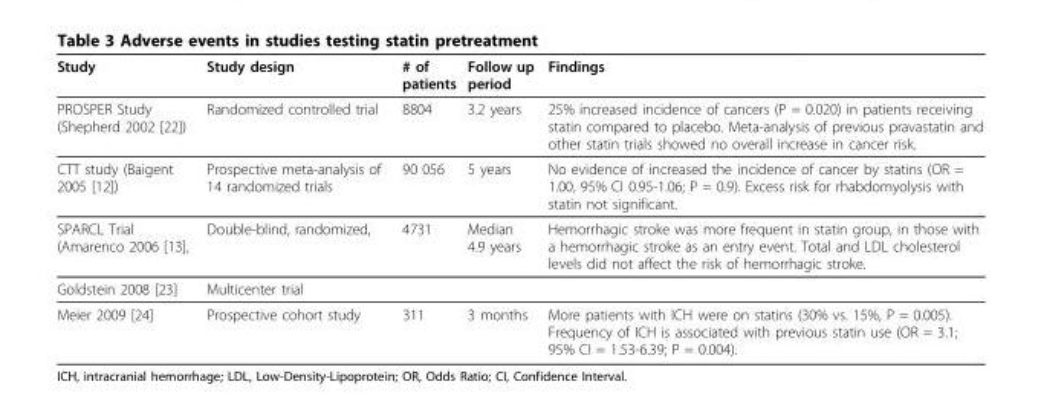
<table><thead><tr><td>Study</td><td>Study design</td><td># of patients</td><td>Follow up period</td><td>Findings</td></tr></thead><tbody><tr><td>PROSPER Study (Shepherd 2002 [22])</td><td>Randomized controlled trial</td><td>8804</td><td>3.2 years</td><td>25% increased incidence of cancers (P = 0.020) in patients receiving statin compared to placebo. Meta-analysis of previous pravastatin and other statin trials showed no overall increase in cancer risk.</td></tr><tr><td>CTT study (Baigent 2005 [12])</td><td>Prospective meta-analysis of 14 randomized trials</td><td>90 056</td><td>5 years</td><td>No evidence of increased the incidence of cancer by statins (OR = 1.00, 95% CI 0.95-1.06; P = 0.9). Excess risk for rhabdomyolysis with statin not significant.</td></tr><tr><td>SPARCL Trial (Amarenco 2006 [13],</td><td>Double-blind, randomized,</td><td>4731</td><td>Median 4.9 years</td><td>Hemorrhagic stroke was more frequent in statin group, in those with a hemorrhagic stroke as an entry event. Total and LDL cholesterol levels did not affect the risk of hemorrhagic stroke.</td></tr><tr><td>Goldstein 2008 [23]</td><td>Multicenter trial</td><td></td><td></td><td></td></tr><tr><td>Meier 2009 [24]</td><td>Prospective cohort study</td><td>311</td><td>3 months</td><td>More patients with ICH were on statins (30% vs. 15%, P = 0.005). Frequency of ICH is associated with previous statin use (OR = 3.1; 95% CI = 1.53-6.39; P = 0.004).</td></tr></tbody></table>